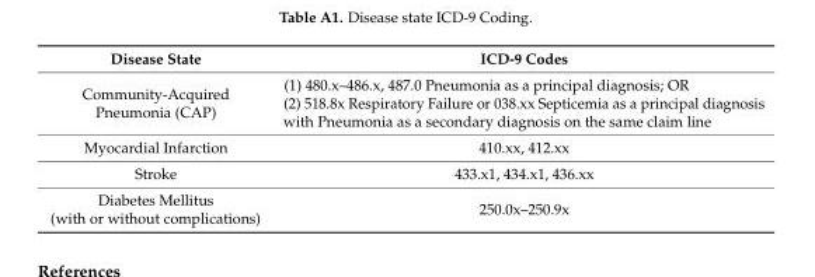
<table><thead><tr><td>Disease State</td><td>ICD-9 Codes</td></tr></thead><tbody><tr><td>Community-Acquired Pneumonia (CAP)</td><td>(1) 480.x–486.x, 487.0 Pneumonia as a principal diagnosis; OR (2) 518.8x Respiratory Failure or 038.xx Septicemia as a principal diagnosis with Pneumonia as a secondary diagnosis on the same claim line</td></tr><tr><td>Myocardial Infarction</td><td>410.xx, 412.xx</td></tr><tr><td>Stroke</td><td>433.x1, 434.x1, 436.xx</td></tr><tr><td>Diabetes Mellitus (with or without complications)</td><td>250.0x–250.9x</td></tr></tbody></table>